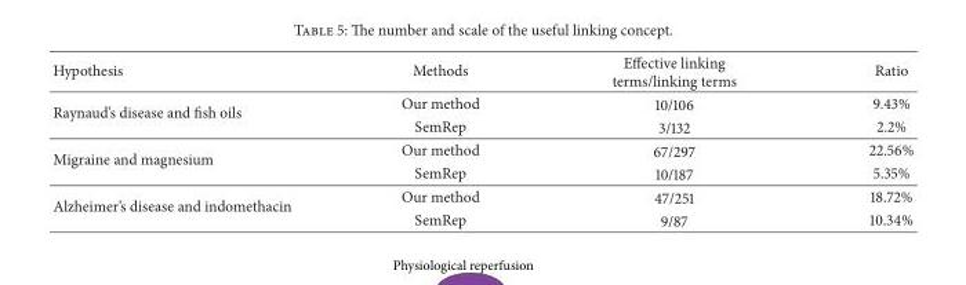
<table><thead><tr><td>Hypothesis</td><td>Methods</td><td>Effective linking terms/linking terms</td><td>Ratio</td></tr></thead><tbody><tr><td rowspan="2">Raynaud’s disease and fish oils</td><td>Our method</td><td>10/106</td><td>9.43%</td></tr><tr><td>SemRep</td><td>3/132</td><td>2.2%</td></tr><tr><td rowspan="2">Migraine and magnesium</td><td>Our method</td><td>67/297</td><td>22.56%</td></tr><tr><td>SemRep</td><td>10/187</td><td>5.35%</td></tr><tr><td rowspan="2">Alzheimer’s disease and indomethacin</td><td>Our method</td><td>47/251</td><td>18.72%</td></tr><tr><td>SemRep</td><td>9/87</td><td>10.34%</td></tr></tbody></table>